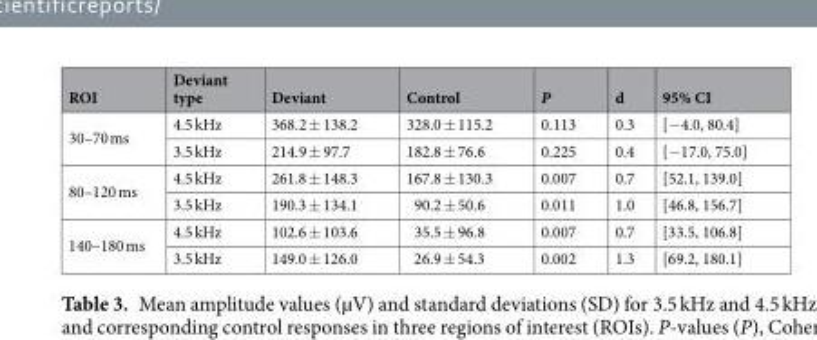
<table><thead><tr><td>ROI</td><td>Deviant type</td><td>Deviant</td><td>Control</td><td>P</td><td>d</td><td>95% CI</td></tr></thead><tbody><tr><td rowspan="2">30–70 ms</td><td>4.5 kHz</td><td>368.2 ± 138.2</td><td>328.0 ± 115.2</td><td>0.113</td><td>0.3</td><td>[−4.0, 80.4]</td></tr><tr><td>3.5 kHz</td><td>214.9 ± 97.7</td><td>182.8 ± 76.6</td><td>0.225</td><td>0.4</td><td>[−17.0, 75.0]</td></tr><tr><td rowspan="2">80–120 ms</td><td>4.5 kHz</td><td>261.8 ± 148.3</td><td>167.8 ± 130.3</td><td>0.007</td><td>0.7</td><td>[52.1, 139.0]</td></tr><tr><td>3.5 kHz</td><td>190.3 ± 134.1</td><td>90.2 ± 50.6</td><td>0.011</td><td>1.0</td><td>[46.8, 156.7]</td></tr><tr><td rowspan="2">140–180 ms</td><td>4.5 kHz</td><td>102.6 ± 103.6</td><td>35.5 ± 96.8</td><td>0.007</td><td>0.7</td><td>[33.5, 106.8]</td></tr><tr><td>3.5 kHz</td><td>149.0 ± 126.0</td><td>26.9 ± 54.3</td><td>0.002</td><td>1.3</td><td>[69.2, 180.1]</td></tr></tbody></table>